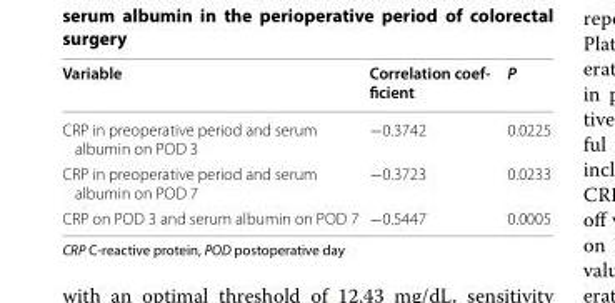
<table><thead><tr><td>Variable</td><td>Correlation coef- ficient</td><td>P</td></tr></thead><tbody><tr><td>CRP in preoperative period and serum albumin on POD 3</td><td>−0.3742</td><td>0.0225</td></tr><tr><td>CRP in preoperative period and serum albumin on POD 7</td><td>−0.3723</td><td>0.0233</td></tr><tr><td>CRP on POD 3 and serum albumin on POD 7</td><td>−0.5447</td><td>0.0005</td></tr></tbody></table>